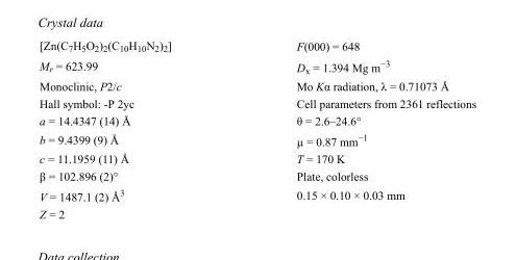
<table><tbody><tr><td>[Zn(C<sub>7</sub>H<sub>5</sub>O<sub>2</sub>)<sub>2</sub>(C<sub>10</sub>H<sub>10</sub>N<sub>2</sub>)<sub>2</sub>]</td><td>F(000) = 648</td></tr><tr><td>M<sub>r</sub> = 623.99</td><td>D<sub>x</sub> = 1.394 Mg m<sup>−3</sup></td></tr><tr><td>Monoclinic, P2/c</td><td>Mo Kα radiation, λ = 0.71073 Å</td></tr><tr><td>Hall symbol: -P 2yc</td><td>Cell parameters from 2361 reflections</td></tr><tr><td>a = 14.4347 (14) Å</td><td>θ = 2.6–24.6°</td></tr><tr><td>b = 9.4399 (9) Å</td><td>µ = 0.87 mm<sup>−1</sup></td></tr><tr><td>c = 11.1959 (11) Å</td><td>T = 170 K</td></tr><tr><td>β = 102.896 (2)°</td><td>Plate, colorless</td></tr><tr><td>V = 1487.1 (2) Å<sup>3</sup></td><td>0.15 × 0.10 × 0.03 mm</td></tr><tr><td>Z = 2</td><td></td></tr></tbody></table>